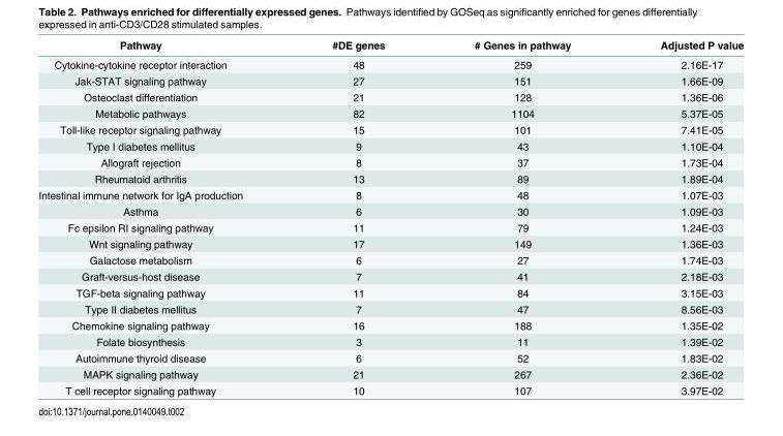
<table><thead><tr><td>Pathway</td><td>#DE genes</td><td># Genes in pathway</td><td>Adjusted P value</td></tr></thead><tbody><tr><td>Cytokine-cytokine receptor interaction</td><td>48</td><td>259</td><td>2.16E-17</td></tr><tr><td>Jak-STAT signaling pathway</td><td>27</td><td>151</td><td>1.66E-09</td></tr><tr><td>Osteoclast differentiation</td><td>21</td><td>128</td><td>1.36E-06</td></tr><tr><td>Metabolic pathways</td><td>82</td><td>1104</td><td>5.37E-05</td></tr><tr><td>Toll-like receptor signaling pathway</td><td>15</td><td>101</td><td>7.41E-05</td></tr><tr><td>Type I diabetes mellitus</td><td>9</td><td>43</td><td>1.10E-04</td></tr><tr><td>Allograft rejection</td><td>8</td><td>37</td><td>1.73E-04</td></tr><tr><td>Rheumatoid arthritis</td><td>13</td><td>89</td><td>1.89E-04</td></tr><tr><td>Intestinal immune network for IgA production</td><td>8</td><td>48</td><td>1.07E-03</td></tr><tr><td>Asthma</td><td>6</td><td>30</td><td>1.09E-03</td></tr><tr><td>Fc epsilon RI signaling pathway</td><td>11</td><td>79</td><td>1.24E-03</td></tr><tr><td>Wnt signaling pathway</td><td>17</td><td>149</td><td>1.36E-03</td></tr><tr><td>Galactose metabolism</td><td>6</td><td>27</td><td>1.74E-03</td></tr><tr><td>Graft-versus-host disease</td><td>7</td><td>41</td><td>2.18E-03</td></tr><tr><td>TGF-beta signaling pathway</td><td>11</td><td>84</td><td>3.15E-03</td></tr><tr><td>Type II diabetes mellitus</td><td>7</td><td>47</td><td>8.56E-03</td></tr><tr><td>Chemokine signaling pathway</td><td>16</td><td>188</td><td>1.35E-02</td></tr><tr><td>Folate biosynthesis</td><td>3</td><td>11</td><td>1.39E-02</td></tr><tr><td>Autoimmune thyroid disease</td><td>6</td><td>52</td><td>1.83E-02</td></tr><tr><td>MAPK signaling pathway</td><td>21</td><td>267</td><td>2.36E-02</td></tr><tr><td>T cell receptor signaling pathway</td><td>10</td><td>107</td><td>3.97E-02</td></tr></tbody></table>